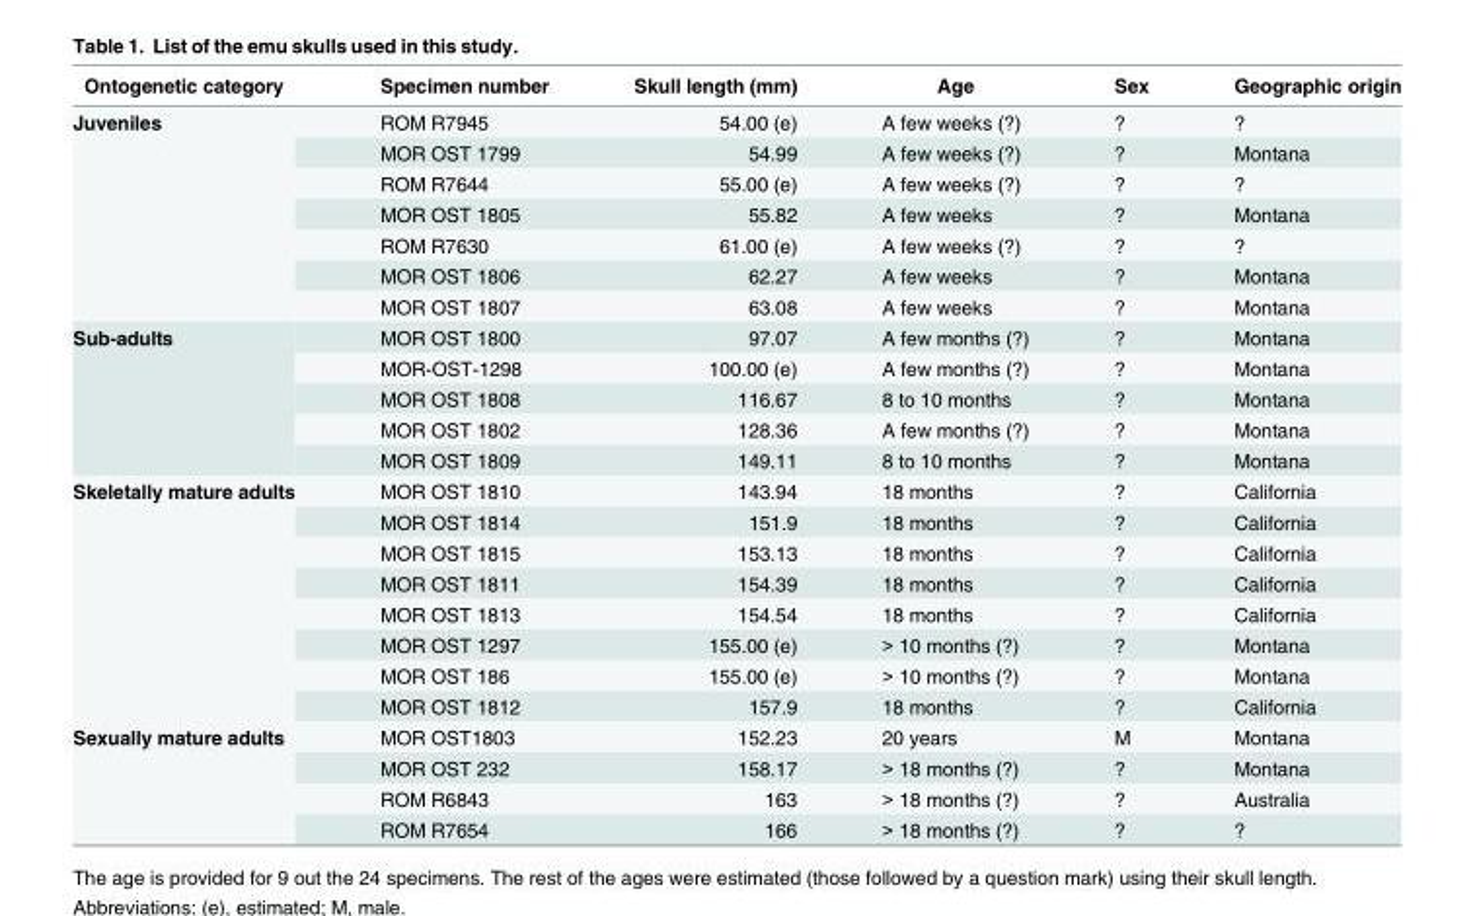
<table><thead><tr><td>Ontogenetic category</td><td>Specimen number</td><td>Skull length (mm)</td><td>Age</td><td>Sex</td><td>Geographic origin</td></tr></thead><tbody><tr><td rowspan="7">Juveniles</td><td>ROM R7945</td><td>54.00 (e)</td><td>A few weeks (?)</td><td>?</td><td>?</td></tr><tr><td>MOR OST 1799</td><td>54.99</td><td>A few weeks (?)</td><td>?</td><td>Montana</td></tr><tr><td>ROM R7644</td><td>55.00 (e)</td><td>A few weeks (?)</td><td>?</td><td>?</td></tr><tr><td>MOR OST 1805</td><td>55.82</td><td>A few weeks</td><td>?</td><td>Montana</td></tr><tr><td>ROM R7630</td><td>61.00 (e)</td><td>A few weeks (?)</td><td>?</td><td>?</td></tr><tr><td>MOR OST 1806</td><td>62.27</td><td>A few weeks</td><td>?</td><td>Montana</td></tr><tr><td>MOR OST 1807</td><td>63.08</td><td>A few weeks</td><td>?</td><td>Montana</td></tr><tr><td rowspan="5">Sub-adults</td><td>MOR OST 1800</td><td>97.07</td><td>A few months (?)</td><td>?</td><td>Montana</td></tr><tr><td>MOR-OST-1298</td><td>100.00 (e)</td><td>A few months (?)</td><td>?</td><td>Montana</td></tr><tr><td>MOR OST 1808</td><td>116.67</td><td>8 to 10 months</td><td>?</td><td>Montana</td></tr><tr><td>MOR OST 1802</td><td>128.36</td><td>A few months (?)</td><td>?</td><td>Montana</td></tr><tr><td>MOR OST 1809</td><td>149.11</td><td>8 to 10 months</td><td>?</td><td>Montana</td></tr><tr><td rowspan="8">Skeletally mature adults</td><td>MOR OST 1810</td><td>143.94</td><td>18 months</td><td>?</td><td>California</td></tr><tr><td>MOR OST 1814</td><td>151.9</td><td>18 months</td><td>?</td><td>California</td></tr><tr><td>MOR OST 1815</td><td>153.13</td><td>18 months</td><td>?</td><td>California</td></tr><tr><td>MOR OST 1811</td><td>154.39</td><td>18 months</td><td>?</td><td>California</td></tr><tr><td>MOR OST 1813</td><td>154.54</td><td>18 months</td><td>?</td><td>California</td></tr><tr><td>MOR OST 1297</td><td>155.00 (e)</td><td>&gt; 10 months (?)</td><td>?</td><td>Montana</td></tr><tr><td>MOR OST 186</td><td>155.00 (e)</td><td>&gt; 10 months (?)</td><td>?</td><td>Montana</td></tr><tr><td>MOR OST 1812</td><td>157.9</td><td>18 months</td><td>?</td><td>California</td></tr><tr><td rowspan="4">Sexually mature adults</td><td>MOR OST1803</td><td>152.23</td><td>20 years</td><td>M</td><td>Montana</td></tr><tr><td>MOR OST 232</td><td>158.17</td><td>&gt; 18 months (?)</td><td>?</td><td>Montana</td></tr><tr><td>ROM R6843</td><td>163</td><td>&gt; 18 months (?)</td><td>?</td><td>Australia</td></tr><tr><td>ROM R7654</td><td>166</td><td>&gt; 18 months (?)</td><td>?</td><td>?</td></tr></tbody></table>